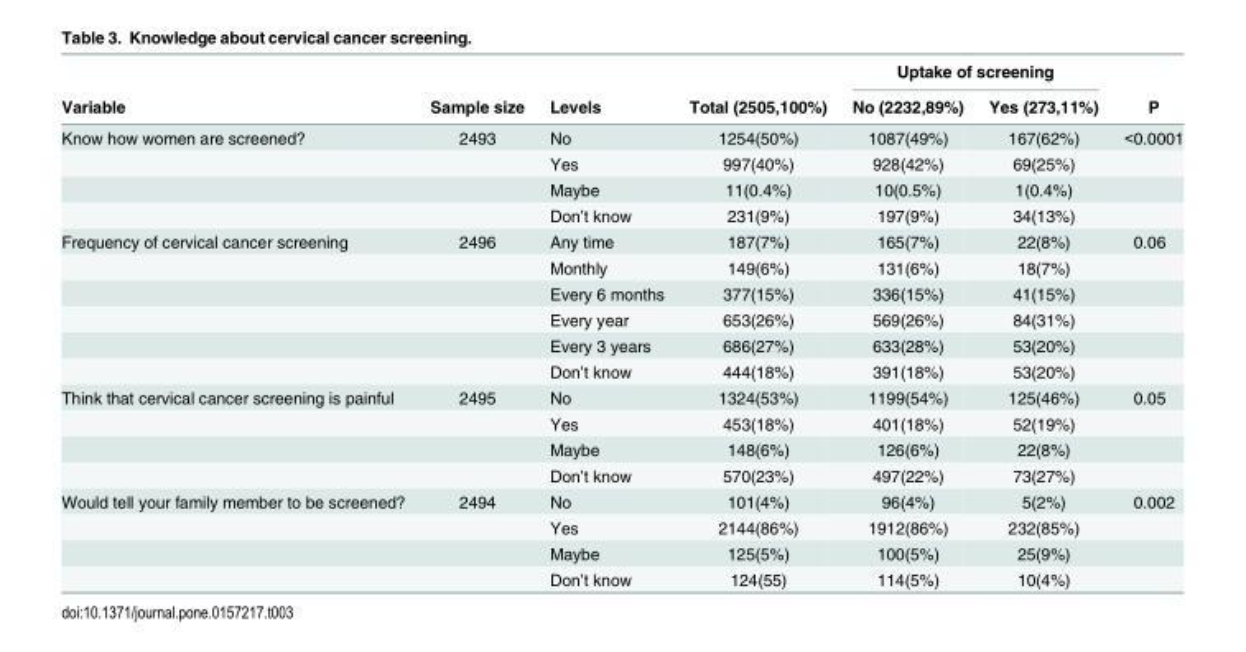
<table><thead><tr><td rowspan="2">Variable</td><td rowspan="2">Sample size</td><td rowspan="2">Levels</td><td rowspan="2">Total (2505,100%)</td><td colspan="2">Uptake of screening</td><td rowspan="2">P</td></tr><tr><td>No (2232,89%)</td><td>Yes (273,11%)</td></tr></thead><tbody><tr><td rowspan="4">Know how women are screened?</td><td>2493</td><td>No</td><td>1254(50%)</td><td>1087(49%)</td><td>167(62%)</td><td>&lt;0.0001</td></tr><tr><td></td><td>Yes</td><td>997(40%)</td><td>928(42%)</td><td>69(25%)</td><td></td></tr><tr><td></td><td>Maybe</td><td>11(0.4%)</td><td>10(0.5%)</td><td>1(0.4%)</td><td></td></tr><tr><td></td><td>Don’t know</td><td>231(9%)</td><td>197(9%)</td><td>34(13%)</td><td></td></tr><tr><td rowspan="6">Frequency of cervical cancer screening</td><td>2496</td><td>Any time</td><td>187(7%)</td><td>165(7%)</td><td>22(8%)</td><td>0.06</td></tr><tr><td></td><td>Monthly</td><td>149(6%)</td><td>131(6%)</td><td>18(7%)</td><td></td></tr><tr><td></td><td>Every 6 months</td><td>377(15%)</td><td>336(15%)</td><td>41(15%)</td><td></td></tr><tr><td></td><td>Every year</td><td>653(26%)</td><td>569(26%)</td><td>84(31%)</td><td></td></tr><tr><td></td><td>Every 3 years</td><td>686(27%)</td><td>633(28%)</td><td>53(20%)</td><td></td></tr><tr><td></td><td>Don’t know</td><td>444(18%)</td><td>391(18%)</td><td>53(20%)</td><td></td></tr><tr><td rowspan="4">Think that cervical cancer screening is painful</td><td>2495</td><td>No</td><td>1324(53%)</td><td>1199(54%)</td><td>125(46%)</td><td>0.05</td></tr><tr><td></td><td>Yes</td><td>453(18%)</td><td>401(18%)</td><td>52(19%)</td><td></td></tr><tr><td></td><td>Maybe</td><td>148(6%)</td><td>126(6%)</td><td>22(8%)</td><td></td></tr><tr><td></td><td>Don’t know</td><td>570(23%)</td><td>497(22%)</td><td>73(27%)</td><td></td></tr><tr><td rowspan="4">Would tell your family member to be screened?</td><td>2494</td><td>No</td><td>101(4%)</td><td>96(4%)</td><td>5(2%)</td><td>0.002</td></tr><tr><td></td><td>Yes</td><td>2144(86%)</td><td>1912(86%)</td><td>232(85%)</td><td></td></tr><tr><td></td><td>Maybe</td><td>125(5%)</td><td>100(5%)</td><td>25(9%)</td><td></td></tr><tr><td></td><td>Don’t know</td><td>124(55)</td><td>114(5%)</td><td>10(4%)</td><td></td></tr></tbody></table>